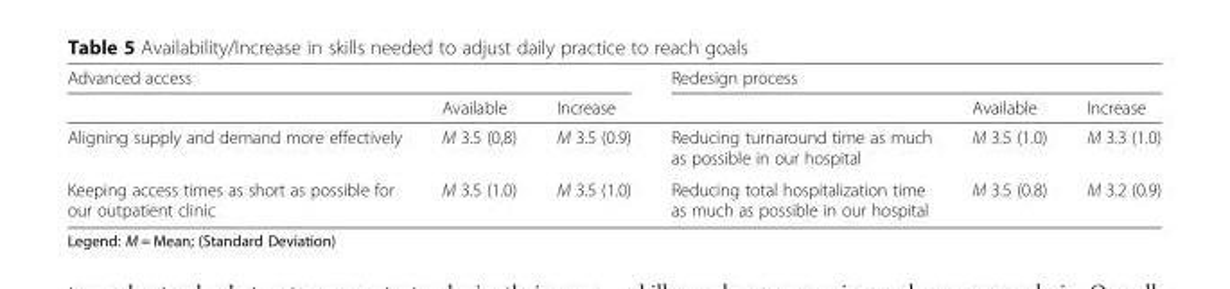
<table><thead><tr><td colspan="3">Advanced access</td><td colspan="3">Redesign process</td></tr><tr><td></td><td>Available</td><td>Increase</td><td></td><td>Available</td><td>Increase</td></tr></thead><tbody><tr><td>Aligning supply and demand more effectively</td><td>M 3.5 (0,8)</td><td>M 3.5 (0.9)</td><td>Reducing turnaround time as much as possible in our hospital</td><td>M 3.5 (1.0)</td><td>M 3.3 (1.0)</td></tr><tr><td>Keeping access times as short as possible for our outpatient clinic</td><td>M 3.5 (1.0)</td><td>M 3.5 (1.0)</td><td>Reducing total hospitalization time as much as possible in our hospital</td><td>M 3.5 (0.8)</td><td>M 3.2 (0.9)</td></tr></tbody></table>